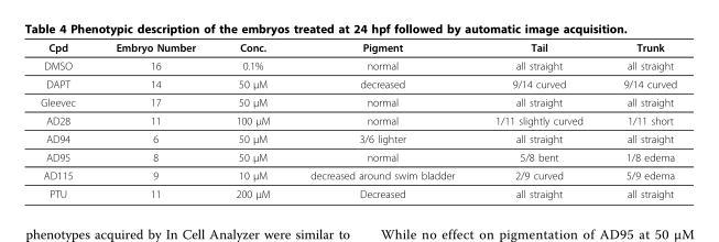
<table><thead><tr><td>Cpd</td><td>Embryo Number</td><td>Conc.</td><td>Pigment</td><td>Tail</td><td>Trunk</td></tr></thead><tbody><tr><td>DMSO</td><td>16</td><td>0.1%</td><td>normal</td><td>all straight</td><td>all straight</td></tr><tr><td>DAPT</td><td>14</td><td>50 μM</td><td>decreased</td><td>9/14 curved</td><td>9/14 curved</td></tr><tr><td>Gleevec</td><td>17</td><td>50 μM</td><td>normal</td><td>all straight</td><td>all straight</td></tr><tr><td>AD28</td><td>11</td><td>100 μM</td><td>normal</td><td>1/11 slightly curved</td><td>1/11 short</td></tr><tr><td>AD94</td><td>6</td><td>50 μM</td><td>3/6 lighter</td><td>all straight</td><td>all straight</td></tr><tr><td>AD95</td><td>8</td><td>50 μM</td><td>normal</td><td>5/8 bent</td><td>1/8 edema</td></tr><tr><td>AD115</td><td>9</td><td>10 μM</td><td>decreased around swim bladder</td><td>2/9 curved</td><td>5/9 edema</td></tr><tr><td>PTU</td><td>11</td><td>200 μM</td><td>Decreased</td><td>all straight</td><td>all straight</td></tr></tbody></table>